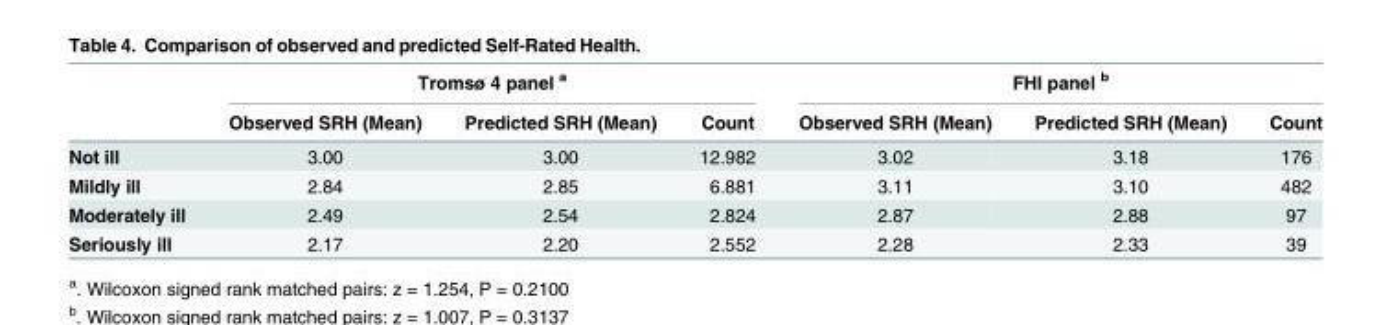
<table><thead><tr><td rowspan="2"></td><td colspan="3">Tromsø 4 panel <sup>a</sup></td><td colspan="3">FHI panel <sup>b</sup></td></tr><tr><td>Observed SRH (Mean)</td><td>Predicted SRH (Mean)</td><td>Count</td><td>Observed SRH (Mean)</td><td>Predicted SRH (Mean)</td><td>Count</td></tr></thead><tbody><tr><td>Not ill</td><td>3.00</td><td>3.00</td><td>12.982</td><td>3.02</td><td>3.18</td><td>176</td></tr><tr><td>Mildly ill</td><td>2.84</td><td>2.85</td><td>6.881</td><td>3.11</td><td>3.10</td><td>482</td></tr><tr><td>Moderately ill</td><td>2.49</td><td>2.54</td><td>2.824</td><td>2.87</td><td>2.88</td><td>97</td></tr><tr><td>Seriously ill</td><td>2.17</td><td>2.20</td><td>2.552</td><td>2.28</td><td>2.33</td><td>39</td></tr></tbody></table>